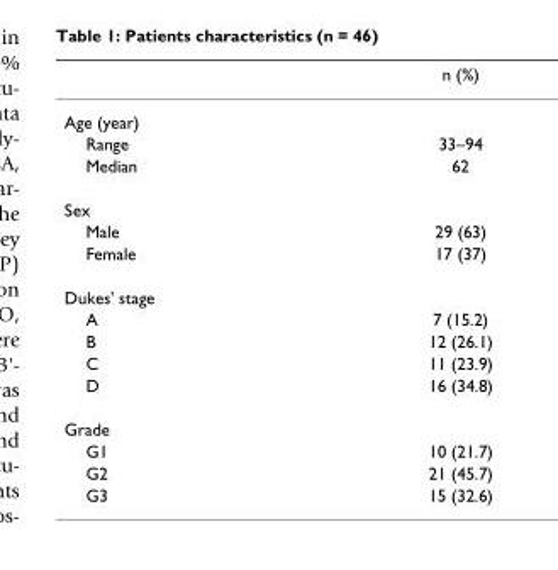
<table><thead><tr><td></td><td>n (%)</td></tr></thead><tbody><tr><td colspan="2">Age (year)</td></tr><tr><td>Range</td><td>33–94</td></tr><tr><td>Median</td><td>62</td></tr><tr><td colspan="2">Sex</td></tr><tr><td>Male</td><td>29 (63)</td></tr><tr><td>Female</td><td>17 (37)</td></tr><tr><td colspan="2">Dukes&#x27; stage</td></tr><tr><td>A</td><td>7 (15.2)</td></tr><tr><td>B</td><td>12 (26.1)</td></tr><tr><td>C</td><td>11 (23.9)</td></tr><tr><td>D</td><td>16 (34.8)</td></tr><tr><td colspan="2">Grade</td></tr><tr><td>G1</td><td>10 (21.7)</td></tr><tr><td>G2</td><td>21 (45.7)</td></tr><tr><td>G3</td><td>15 (32.6)</td></tr></tbody></table>